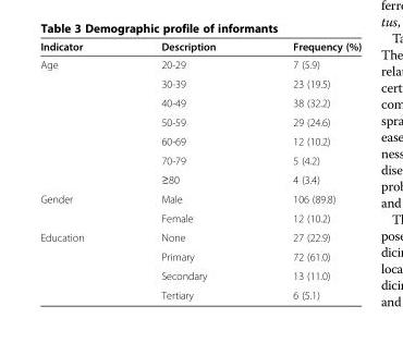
<table><thead><tr><td>Indicator</td><td>Description</td><td>Frequency (%)</td></tr></thead><tbody><tr><td rowspan="7">Age</td><td>20-29</td><td>7 (5.9)</td></tr><tr><td>30-39</td><td>23 (19.5)</td></tr><tr><td>40-49</td><td>38 (32.2)</td></tr><tr><td>50-59</td><td>29 (24.6)</td></tr><tr><td>60-69</td><td>12 (10.2)</td></tr><tr><td>70-79</td><td>5 (4.2)</td></tr><tr><td>≥80</td><td>4 (3.4)</td></tr><tr><td rowspan="2">Gender</td><td>Male</td><td>106 (89.8)</td></tr><tr><td>Female</td><td>12 (10.2)</td></tr><tr><td rowspan="4">Education</td><td>None</td><td>27 (22.9)</td></tr><tr><td>Primary</td><td>72 (61.0)</td></tr><tr><td>Secondary</td><td>13 (11.0)</td></tr><tr><td>Tertiary</td><td>6 (5.1)</td></tr></tbody></table>